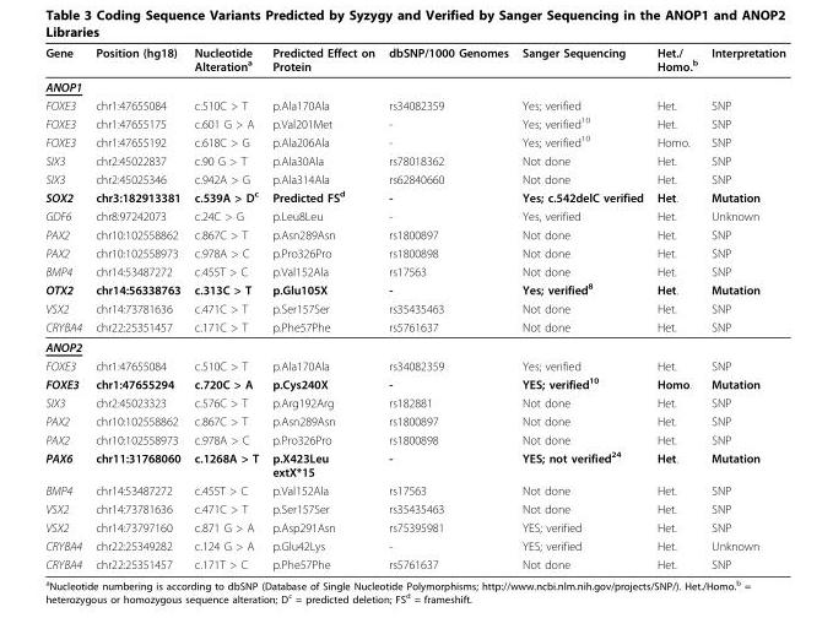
<table><thead><tr><td>Gene</td><td>Position (hg18)</td><td>Nucleotide Alteration<sup>a</sup></td><td>Predicted Effect on Protein</td><td>dbSNP/1000 Genomes</td><td>Sanger Sequencing</td><td>Het./ Homo.<sup>b</sup></td><td>Interpretation</td></tr></thead><tbody><tr><td colspan="8">ANOP1</td></tr><tr><td>FOXE3</td><td>chr1:47655084</td><td>c.510C &gt; T</td><td>p.Ala170Ala</td><td>rs34082359</td><td>Yes; verified</td><td>Het.</td><td>SNP</td></tr><tr><td>FOXE3</td><td>chr1:47655175</td><td>c.601 G &gt; A</td><td>p.Val201Met</td><td>-</td><td>Yes; verified<sup>10</sup></td><td>Het.</td><td>SNP</td></tr><tr><td>FOXE3</td><td>chr1:47655192</td><td>c.618C &gt; G</td><td>p.Ala206Ala</td><td>-</td><td>Yes; verified<sup>10</sup></td><td>Homo.</td><td>SNP</td></tr><tr><td>SIX3</td><td>chr2:45022837</td><td>c.90 G &gt; T</td><td>p.Ala30Ala</td><td>rs78018362</td><td>Not done</td><td>Het.</td><td>SNP</td></tr><tr><td>SIX3</td><td>chr2:45025346</td><td>c.942A &gt; G</td><td>p.Ala314Ala</td><td>rs62840660</td><td>Not done</td><td>Het.</td><td>SNP</td></tr><tr><td>SOX2</td><td>chr3:182913381</td><td>c.539A &gt; D<sup>c</sup></td><td>Predicted FS<sup>d</sup></td><td>-</td><td>Yes; c.542delC verified</td><td>Het.</td><td>Mutation</td></tr><tr><td>GDF6</td><td>chr8:97242073</td><td>c.24C &gt; G</td><td>p.Leu8Leu</td><td>-</td><td>Yes, verified</td><td>Het.</td><td>Unknown</td></tr><tr><td>PAX2</td><td>chr10:102558862</td><td>c.867C &gt; T</td><td>p.Asn289Asn</td><td>rs1800897</td><td>Not done</td><td>Het.</td><td>SNP</td></tr><tr><td>PAX2</td><td>chr10:102558973</td><td>c.978A &gt; C</td><td>p.Pro326Pro</td><td>rs1800898</td><td>Not done</td><td>Het.</td><td>SNP</td></tr><tr><td>BMP4</td><td>chr14:53487272</td><td>c.455T &gt; C</td><td>p.Val152Ala</td><td>rs17563</td><td>Not done</td><td>Het.</td><td>SNP</td></tr><tr><td>OTX2</td><td>chr14:56338763</td><td>c.313C &gt; T</td><td>p.Glu105X</td><td>-</td><td>Yes; verified<sup>8</sup></td><td>Het.</td><td>Mutation</td></tr><tr><td>VSX2</td><td>chr14:73781636</td><td>c.471C &gt; T</td><td>p.Ser157Ser</td><td>rs35435463</td><td>Not done</td><td>Het.</td><td>SNP</td></tr><tr><td>CRYBA4</td><td>chr22:25351457</td><td>c.171C &gt; T</td><td>p.Phe57Phe</td><td>rs5761637</td><td>Not done</td><td>Het.</td><td>SNP</td></tr><tr><td colspan="8">ANOP2</td></tr><tr><td>FOXE3</td><td>chr1:47655084</td><td>c.510C &gt; T</td><td>p.Ala170Ala</td><td>rs34082359</td><td>Yes; verified</td><td>Het.</td><td>SNP</td></tr><tr><td>FOXE3</td><td>chr1:47655294</td><td>c.720C &gt; A</td><td>p.Cys240X</td><td>-</td><td>YES; verified<sup>10</sup></td><td>Homo.</td><td>Mutation</td></tr><tr><td>SIX3</td><td>chr2:45023323</td><td>c.576C &gt; T</td><td>p.Arg192Arg</td><td>rs182881</td><td>Not done</td><td>Het.</td><td>SNP</td></tr><tr><td>PAX2</td><td>chr10:102558862</td><td>c.867C &gt; T</td><td>p.Asn289Asn</td><td>rs1800897</td><td>Not done</td><td>Het.</td><td>SNP</td></tr><tr><td>PAX2</td><td>chr10:102558973</td><td>c.978A &gt; C</td><td>p.Pro326Pro</td><td>rs1800898</td><td>Not done</td><td>Het.</td><td>SNP</td></tr><tr><td>PAX6</td><td>chr11:31768060</td><td>c.1268A &gt; T</td><td>p.X423Leu extX*15</td><td>-</td><td>YES; not verified<sup>24</sup></td><td>Het.</td><td>Mutation</td></tr><tr><td>BMP4</td><td>chr14:53487272</td><td>c.455T &gt; C</td><td>p.Val152Ala</td><td>rs17563</td><td>Not done</td><td>Het.</td><td>SNP</td></tr><tr><td>VSX2</td><td>chr14:73781636</td><td>c.471C &gt; T</td><td>p.Ser157Ser</td><td>rs35435463</td><td>Not done</td><td>Het.</td><td>SNP</td></tr><tr><td>VSX2</td><td>chr14:73797160</td><td>c.871 G &gt; A</td><td>p.Asp291Asn</td><td>rs75395981</td><td>YES; verified</td><td>Het.</td><td>SNP</td></tr><tr><td>CRYBA4</td><td>chr22:25349282</td><td>c.124 G &gt; A</td><td>p.Glu42Lys</td><td>-</td><td>YES; verified</td><td>Het.</td><td>Unknown</td></tr><tr><td>CRYBA4</td><td>chr22:25351457</td><td>c.171T &gt; C</td><td>p.Phe57Phe</td><td>rs5761637</td><td>Not done</td><td>Het.</td><td>SNP</td></tr></tbody></table>